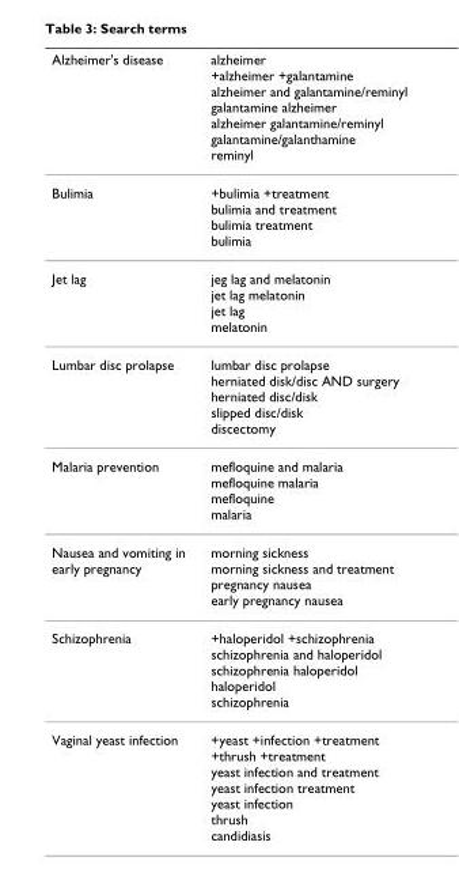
<table><thead><tr><td>Alzheimer&#x27;s disease</td><td>alzheimer +alzheimer +galantamine alzheimer and galantamine/reminyl galantamine alzheimer alzheimer galantamine/reminyl galantamine/galanthamine reminyl</td></tr></thead><tbody><tr><td>Bulimia</td><td>+bulimia +treatment bulimia and treatment bulimia treatment bulimia</td></tr><tr><td>Jet lag</td><td>jeg lag and melatonin jet lag melatonin jet lag melatonin</td></tr><tr><td>Lumbar disc prolapse</td><td>lumbar disc prolapse herniated disk/disc AND surgery herniated disc/disk slipped disc/disk discectomy</td></tr><tr><td>Malaria prevention</td><td>mefloquine and malaria mefloquine malaria mefloquine malaria</td></tr><tr><td>Nausea and vomiting in early pregnancy</td><td>morning sickness morning sickness and treatment pregnancy nausea early pregnancy nausea</td></tr><tr><td>Schizophrenia</td><td>+haloperidol +schizophrenia schizophrenia and haloperidol schizophrenia haloperidol haloperidol schizophrenia</td></tr><tr><td>Vaginal yeast infection</td><td>+yeast +infection +treatment +thrush +treatment yeast infection and treatment yeast infection treatment yeast infection thrush candidiasis</td></tr></tbody></table>